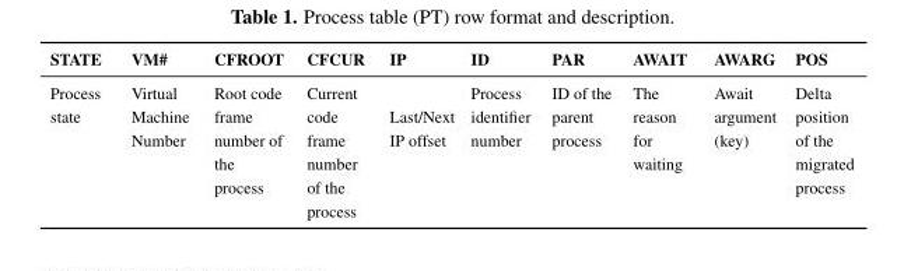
<table><thead><tr><td>STATE</td><td>VM#</td><td>CFROOT</td><td>CFCUR</td><td>IP</td><td>ID</td><td>PAR</td><td>AWAIT</td><td>AWARG</td><td>POS</td></tr></thead><tbody><tr><td>Process state</td><td>Virtual Machine Number</td><td>Root code frame number of the process</td><td>Current code frame number of the process</td><td>Last/Next IP offset</td><td>Process identifier number</td><td>ID of the parent process</td><td>The reason for waiting</td><td>Await argument (key)</td><td>Delta position of the migrated process</td></tr></tbody></table>